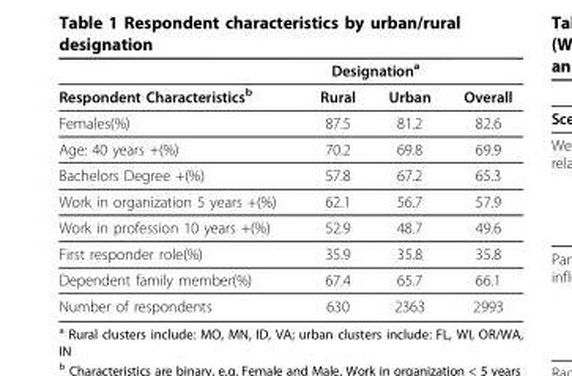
<table><thead><tr><td rowspan="2">Respondent Characteristics<sup>b</sup></td><td colspan="2">Designation<sup>a</sup></td><td rowspan="2">Overall</td></tr><tr><td>Rural</td><td>Urban</td></tr></thead><tbody><tr><td>Females(%)</td><td>87.5</td><td>81.2</td><td>82.6</td></tr><tr><td>Age: 40 years +(%)</td><td>70.2</td><td>69.8</td><td>69.9</td></tr><tr><td>Bachelors Degree +(%)</td><td>57.8</td><td>67.2</td><td>65.3</td></tr><tr><td>Work in organization 5 years +(%)</td><td>62.1</td><td>56.7</td><td>57.9</td></tr><tr><td>Work in profession 10 years +(%)</td><td>52.9</td><td>48.7</td><td>49.6</td></tr><tr><td>First responder role(%)</td><td>35.9</td><td>35.8</td><td>35.8</td></tr><tr><td>Dependent family member(%)</td><td>67.4</td><td>65.7</td><td>66.1</td></tr><tr><td>Number of respondents</td><td>630</td><td>2363</td><td>2993</td></tr></tbody></table>